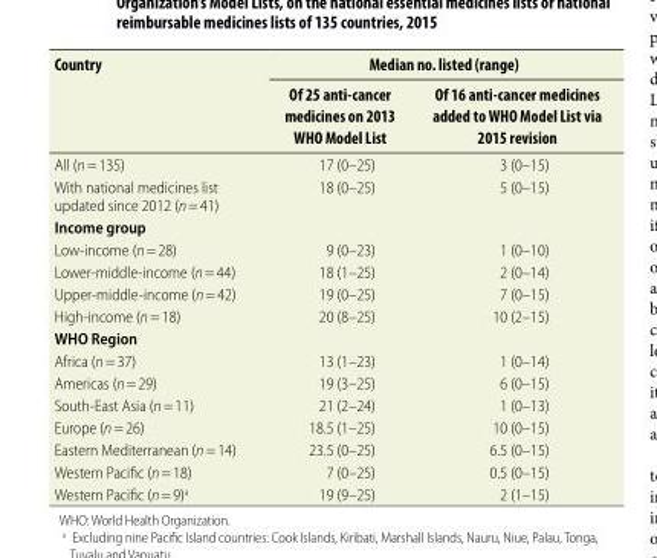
<table><thead><tr><td rowspan="2">Country</td><td colspan="2">Median no. listed (range)</td></tr><tr><td>Of 25 anti-cancer medicines on 2013 WHO Model List</td><td>Of 16 anti-cancer medicines added to WHO Model List via 2015 revision</td></tr></thead><tbody><tr><td>All (n = 135)</td><td>17 (0–25)</td><td>3 (0–15)</td></tr><tr><td>With national medicines list updated since 2012 (n = 41)</td><td>18 (0–25)</td><td>5 (0–15)</td></tr><tr><td colspan="3">Income group</td></tr><tr><td>Low-income (n = 28)</td><td>9 (0–23)</td><td>1 (0–10)</td></tr><tr><td>Lower-middle-income (n = 44)</td><td>18 (1–25)</td><td>2 (0–14)</td></tr><tr><td>Upper-middle-income (n = 42)</td><td>19 (0–25)</td><td>7 (0–15)</td></tr><tr><td>High-income (n = 18)</td><td>20 (8–25)</td><td>10 (2–15)</td></tr><tr><td colspan="3">WHO Region</td></tr><tr><td>Africa (n = 37)</td><td>13 (1–23)</td><td>1 (0–14)</td></tr><tr><td>Americas (n = 29)</td><td>19 (3–25)</td><td>6 (0–15)</td></tr><tr><td>South-East Asia (n = 11)</td><td>21 (2–24)</td><td>1 (0–13)</td></tr><tr><td>Europe (n = 26)</td><td>18.5 (1–25)</td><td>10 (0–15)</td></tr><tr><td>Eastern Mediterranean (n = 14)</td><td>23.5 (0–25)</td><td>6.5 (0–15)</td></tr><tr><td>Western Pacific (n = 18)</td><td>7 (0–25)</td><td>0.5 (0–15)</td></tr><tr><td>Western Pacific (n = 9)<sup>a</sup></td><td>19 (9–25)</td><td>2 (1–15)</td></tr></tbody></table>